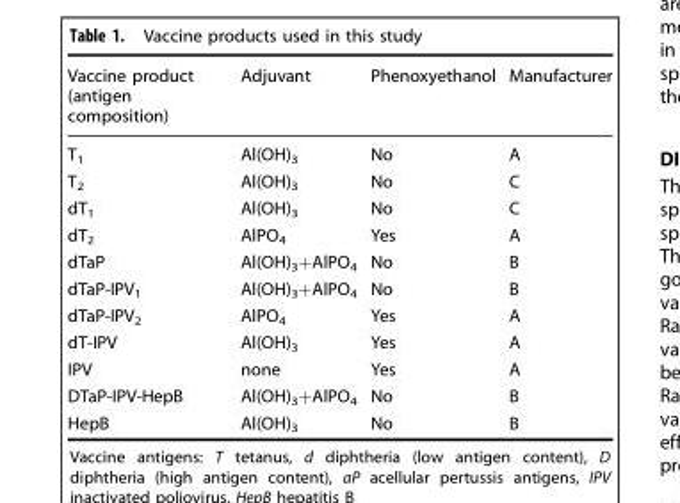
<table><thead><tr><td>Vaccine product (antigen composition)</td><td>Adjuvant</td><td>Phenoxyethanol</td><td>Manufacturer</td></tr></thead><tbody><tr><td>T<sub>1</sub></td><td>Al(OH)<sub>3</sub></td><td>No</td><td>A</td></tr><tr><td>T<sub>2</sub></td><td>Al(OH)<sub>3</sub></td><td>No</td><td>C</td></tr><tr><td>dT<sub>1</sub></td><td>Al(OH)<sub>3</sub></td><td>No</td><td>C</td></tr><tr><td>dT<sub>2</sub></td><td>AlPO<sub>4</sub></td><td>Yes</td><td>A</td></tr><tr><td>dTaP</td><td>Al(OH)<sub>3</sub>+AlPO<sub>4</sub></td><td>No</td><td>B</td></tr><tr><td>dTaP-IPV<sub>1</sub></td><td>Al(OH)<sub>3</sub>+AlPO<sub>4</sub></td><td>No</td><td>B</td></tr><tr><td>dTaP-IPV<sub>2</sub></td><td>AlPO<sub>4</sub></td><td>Yes</td><td>A</td></tr><tr><td>dT-IPV</td><td>Al(OH)<sub>3</sub></td><td>Yes</td><td>A</td></tr><tr><td>IPV</td><td>none</td><td>Yes</td><td>A</td></tr><tr><td>DTaP-IPV-HepB</td><td>Al(OH)<sub>3</sub>+AlPO<sub>4</sub></td><td>No</td><td>B</td></tr><tr><td>HepB</td><td>Al(OH)<sub>3</sub></td><td>No</td><td>B</td></tr></tbody></table>